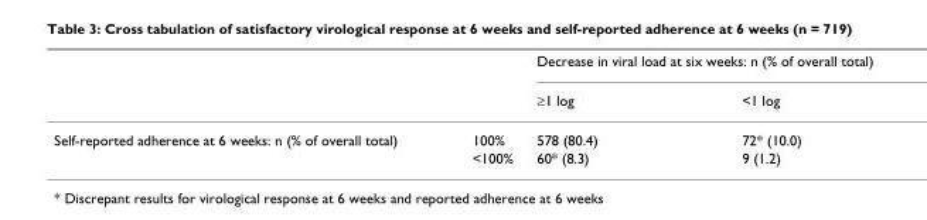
<table><thead><tr><td rowspan="2"></td><td rowspan="2"></td><td colspan="2">Decrease in viral load at six weeks: n (% of overall total)</td></tr><tr><td>≥1 log</td><td>&lt;1 log</td></tr></thead><tbody><tr><td rowspan="2">Self-reported adherence at 6 weeks: n (% of overall total)</td><td>100%</td><td>578 (80.4)</td><td>72* (10.0)</td></tr><tr><td>&lt;100%</td><td>60* (8.3)</td><td>9 (1.2)</td></tr></tbody></table>